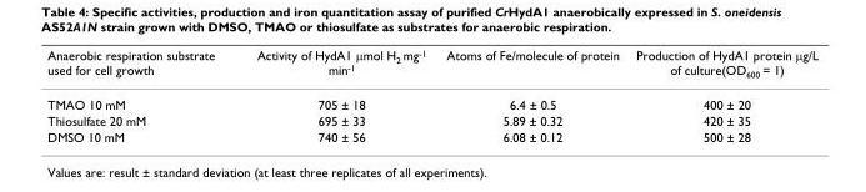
<table><thead><tr><td>Anaerobic respiration substrate used for cell growth</td><td>Activity of HydA1 μmol H<sub>2</sub> mg<sup>-1</sup> min<sup>-1</sup></td><td>Atoms of Fe/molecule of protein</td><td>Production of HydA1 protein μg/L of culture(OD<sub>600</sub> = 1)</td></tr></thead><tbody><tr><td>TMAO 10 mM</td><td>705 ± 18</td><td>6.4 ± 0.5</td><td>400 ± 20</td></tr><tr><td>Thiosulfate 20 mM</td><td>695 ± 33</td><td>5.89 ± 0.32</td><td>420 ± 35</td></tr><tr><td>DMSO 10 mM</td><td>740 ± 56</td><td>6.08 ± 0.12</td><td>500 ± 28</td></tr></tbody></table>